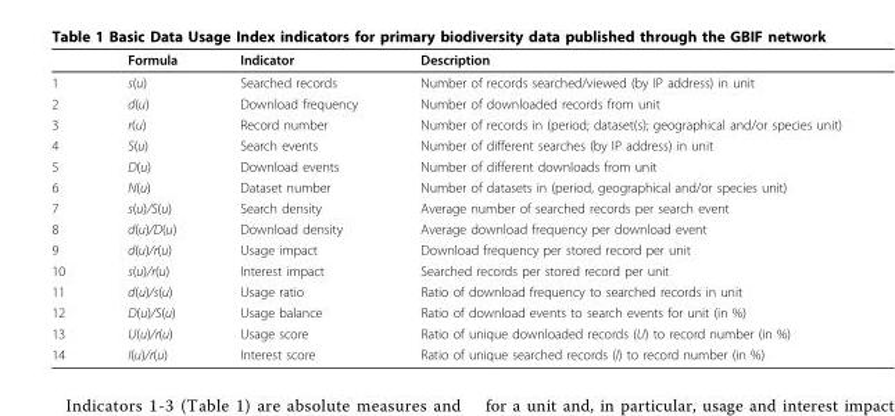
<table><thead><tr><td></td><td>Formula</td><td>Indicator</td><td>Description</td></tr></thead><tbody><tr><td>1</td><td>s(u)</td><td>Searched records</td><td>Number of records searched/viewed (by IP address) in unit</td></tr><tr><td>2</td><td>d(u)</td><td>Download frequency</td><td>Number of downloaded records from unit</td></tr><tr><td>3</td><td>r(u)</td><td>Record number</td><td>Number of records in (period; dataset(s); geographical and/or species unit)</td></tr><tr><td>4</td><td>S(u)</td><td>Search events</td><td>Number of different searches (by IP address) in unit</td></tr><tr><td>5</td><td>D(u)</td><td>Download events</td><td>Number of different downloads from unit</td></tr><tr><td>6</td><td>N(u)</td><td>Dataset number</td><td>Number of datasets in (period, geographical and/or species unit)</td></tr><tr><td>7</td><td>s(u)/S(u)</td><td>Search density</td><td>Average number of searched records per search event</td></tr><tr><td>8</td><td>d(u)/D(u)</td><td>Download density</td><td>Average download frequency per download event</td></tr><tr><td>9</td><td>d(u)/r(u)</td><td>Usage impact</td><td>Download frequency per stored record per unit</td></tr><tr><td>10</td><td>s(u)/r(u)</td><td>Interest impact</td><td>Searched records per stored record per unit</td></tr><tr><td>11</td><td>d(u)/s(u)</td><td>Usage ratio</td><td>Ratio of download frequency to searched records in unit</td></tr><tr><td>12</td><td>D(u)/S(u)</td><td>Usage balance</td><td>Ratio of download events to search events for unit (in %)</td></tr><tr><td>13</td><td>U(u)/r(u)</td><td>Usage score</td><td>Ratio of unique downloaded records (U) to record number (in %)</td></tr><tr><td>14</td><td>I(u)/r(u)</td><td>Interest score</td><td>Ratio of unique searched records (I) to record number (in %)</td></tr></tbody></table>